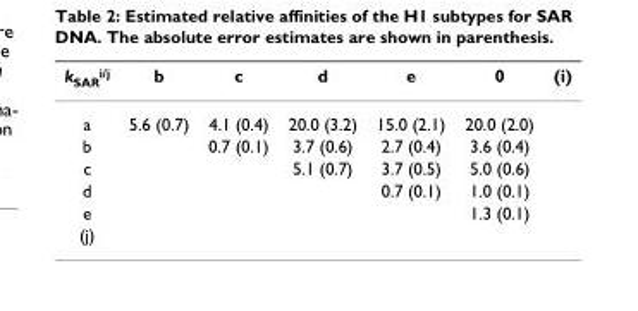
<table><thead><tr><td>kSARi/j</td><td>b</td><td>c</td><td>d</td><td>e</td><td>0</td><td>(i)</td></tr></thead><tbody><tr><td>a</td><td>5.6 (0.7)</td><td>4.1 (0.4)</td><td>20.0 (3.2)</td><td>15.0 (2.1)</td><td>20.0 (2.0)</td><td></td></tr><tr><td>b</td><td></td><td>0.7 (0.1)</td><td>3.7 (0.6)</td><td>2.7 (0.4)</td><td>3.6 (0.4)</td><td></td></tr><tr><td>c</td><td></td><td></td><td>5.1 (0.7)</td><td>3.7 (0.5)</td><td>5.0 (0.6)</td><td></td></tr><tr><td>d</td><td></td><td></td><td></td><td>0.7 (0.1)</td><td>1.0 (0.1)</td><td></td></tr><tr><td>e</td><td></td><td></td><td></td><td></td><td>1.3 (0.1)</td><td></td></tr><tr><td>(j)</td><td></td><td></td><td></td><td></td><td></td><td></td></tr></tbody></table>